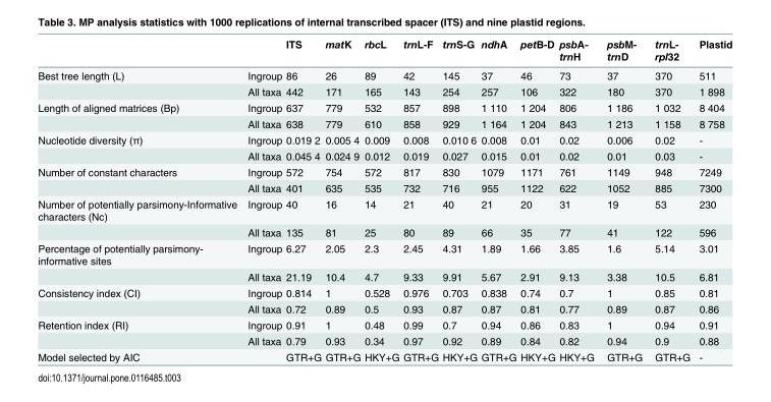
<table><thead><tr><td></td><td></td><td>ITS</td><td>matK</td><td>rbcL</td><td>trnL-F</td><td>trnS-G</td><td>ndhA</td><td>petB-D</td><td>psbA- trnH</td><td>psbM- trnD</td><td>trnL- rpl32</td><td>Plastid</td></tr></thead><tbody><tr><td rowspan="2">Best tree length (L)</td><td>Ingroup</td><td>86</td><td>26</td><td>89</td><td>42</td><td>145</td><td>37</td><td>46</td><td>73</td><td>37</td><td>370</td><td>511</td></tr><tr><td>All taxa</td><td>442</td><td>171</td><td>165</td><td>143</td><td>254</td><td>257</td><td>106</td><td>322</td><td>180</td><td>370</td><td>1 898</td></tr><tr><td rowspan="2">Length of aligned matrices (Bp)</td><td>Ingroup</td><td>637</td><td>779</td><td>532</td><td>857</td><td>898</td><td>1 110</td><td>1 204</td><td>806</td><td>1 186</td><td>1 032</td><td>8 404</td></tr><tr><td>All taxa</td><td>638</td><td>779</td><td>610</td><td>858</td><td>929</td><td>1 164</td><td>1 204</td><td>843</td><td>1 213</td><td>1 158</td><td>8 758</td></tr><tr><td rowspan="2">Nucleotide diversity (π)</td><td>Ingroup</td><td>0.019 2</td><td>0.005 4</td><td>0.009</td><td>0.008</td><td>0.010 6</td><td>0.008</td><td>0.01</td><td>0.02</td><td>0.006</td><td>0.02</td><td>-</td></tr><tr><td>All taxa</td><td>0.045 4</td><td>0.024 9</td><td>0.012</td><td>0.019</td><td>0.027</td><td>0.015</td><td>0.01</td><td>0.02</td><td>0.01</td><td>0.03</td><td>-</td></tr><tr><td rowspan="2">Number of constant characters</td><td>Ingroup</td><td>572</td><td>754</td><td>572</td><td>817</td><td>830</td><td>1079</td><td>1171</td><td>761</td><td>1149</td><td>948</td><td>7249</td></tr><tr><td>All taxa</td><td>401</td><td>635</td><td>535</td><td>732</td><td>716</td><td>955</td><td>1122</td><td>622</td><td>1052</td><td>885</td><td>7300</td></tr><tr><td rowspan="2">Number of potentially parsimony-Informative characters (Nc)</td><td>Ingroup</td><td>40</td><td>16</td><td>14</td><td>21</td><td>40</td><td>21</td><td>20</td><td>31</td><td>19</td><td>53</td><td>230</td></tr><tr><td>All taxa</td><td>135</td><td>81</td><td>25</td><td>80</td><td>89</td><td>66</td><td>35</td><td>77</td><td>41</td><td>122</td><td>596</td></tr><tr><td rowspan="2">Percentage of potentially parsimony- informative sites</td><td>Ingroup</td><td>6.27</td><td>2.05</td><td>2.3</td><td>2.45</td><td>4.31</td><td>1.89</td><td>1.66</td><td>3.85</td><td>1.6</td><td>5.14</td><td>3.01</td></tr><tr><td>All taxa</td><td>21.19</td><td>10.4</td><td>4.7</td><td>9.33</td><td>9.91</td><td>5.67</td><td>2.91</td><td>9.13</td><td>3.38</td><td>10.5</td><td>6.81</td></tr><tr><td rowspan="2">Consistency index (CI)</td><td>Ingroup</td><td>0.814</td><td>1</td><td>0.528</td><td>0.976</td><td>0.703</td><td>0.838</td><td>0.74</td><td>0.7</td><td>1</td><td>0.85</td><td>0.81</td></tr><tr><td>All taxa</td><td>0.72</td><td>0.89</td><td>0.5</td><td>0.93</td><td>0.87</td><td>0.87</td><td>0.81</td><td>0.77</td><td>0.89</td><td>0.87</td><td>0.86</td></tr><tr><td rowspan="2">Retention index (RI)</td><td>Ingroup</td><td>0.91</td><td>1</td><td>0.48</td><td>0.99</td><td>0.7</td><td>0.94</td><td>0.86</td><td>0.83</td><td>1</td><td>0.94</td><td>0.91</td></tr><tr><td>All taxa</td><td>0.79</td><td>0.93</td><td>0.34</td><td>0.97</td><td>0.92</td><td>0.89</td><td>0.84</td><td>0.82</td><td>0.94</td><td>0.9</td><td>0.88</td></tr><tr><td>Model selected by AIC</td><td></td><td>GTR+G</td><td>GTR+G</td><td>HKY+G</td><td>GTR+G</td><td>HKY+G</td><td>GTR+G</td><td>HKY+G</td><td>HKY+G</td><td>GTR+G</td><td>GTR+G</td><td>-</td></tr></tbody></table>